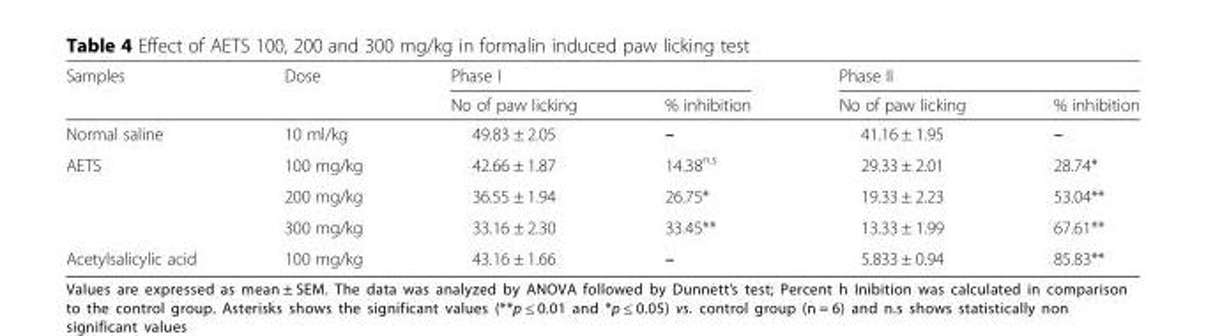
<table><thead><tr><td rowspan="2">Samples</td><td rowspan="2">Dose</td><td colspan="2">Phase I</td><td colspan="2">Phase II</td></tr><tr><td>No of paw licking</td><td>% inhibition</td><td>No of paw licking</td><td>% inhibition</td></tr></thead><tbody><tr><td>Normal saline</td><td>10 ml/kg</td><td>49.83 ± 2.05</td><td>–</td><td>41.16 ± 1.95</td><td>–</td></tr><tr><td rowspan="3">AETS</td><td>100 mg/kg</td><td>42.66 ± 1.87</td><td>14.38<sup>n.s</sup></td><td>29.33 ± 2.01</td><td>28.74*</td></tr><tr><td>200 mg/kg</td><td>36.55 ± 1.94</td><td>26.75*</td><td>19.33 ± 2.23</td><td>53.04**</td></tr><tr><td>300 mg/kg</td><td>33.16 ± 2.30</td><td>33.45**</td><td>13.33 ± 1.99</td><td>67.61**</td></tr><tr><td>Acetylsalicylic acid</td><td>100 mg/kg</td><td>43.16 ± 1.66</td><td>–</td><td>5.833 ± 0.94</td><td>85.83**</td></tr></tbody></table>